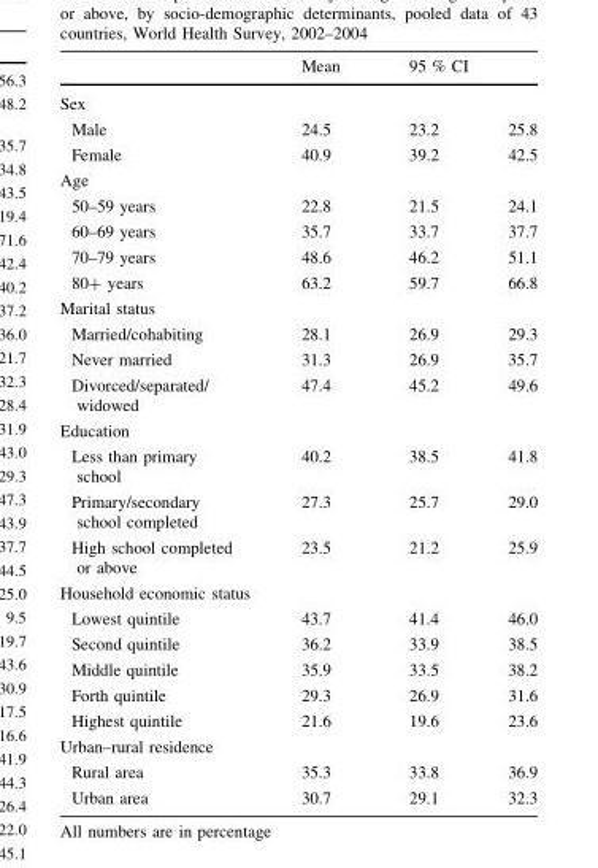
<table><thead><tr><td></td><td>Mean</td><td colspan="2">95 % CI</td></tr><tr><td colspan="4">Sex</td></tr><tr><td>Male</td><td>24.5</td><td>23.2</td><td>25.8</td></tr></thead><tbody><tr><td>Female</td><td>40.9</td><td>39.2</td><td>42.5</td></tr><tr><td colspan="4">Age</td></tr><tr><td>50–59 years</td><td>22.8</td><td>21.5</td><td>24.1</td></tr><tr><td>60–69 years</td><td>35.7</td><td>33.7</td><td>37.7</td></tr><tr><td>70–79 years</td><td>48.6</td><td>46.2</td><td>51.1</td></tr><tr><td>80+ years</td><td>63.2</td><td>59.7</td><td>66.8</td></tr><tr><td colspan="4">Marital status</td></tr><tr><td>Married/cohabiting</td><td>28.1</td><td>26.9</td><td>29.3</td></tr><tr><td>Never married</td><td>31.3</td><td>26.9</td><td>35.7</td></tr><tr><td>Divorced/separated/ widowed</td><td>47.4</td><td>45.2</td><td>49.6</td></tr><tr><td colspan="4">Education</td></tr><tr><td>Less than primary school</td><td>40.2</td><td>38.5</td><td>41.8</td></tr><tr><td>Primary/secondary school completed</td><td>27.3</td><td>25.7</td><td>29.0</td></tr><tr><td>High school completed or above</td><td>23.5</td><td>21.2</td><td>25.9</td></tr><tr><td colspan="4">Household economic status</td></tr><tr><td>Lowest quintile</td><td>43.7</td><td>41.4</td><td>46.0</td></tr><tr><td>Second quintile</td><td>36.2</td><td>33.9</td><td>38.5</td></tr><tr><td>Middle quintile</td><td>35.9</td><td>33.5</td><td>38.2</td></tr><tr><td>Forth quintile</td><td>29.3</td><td>26.9</td><td>31.6</td></tr><tr><td>Highest quintile</td><td>21.6</td><td>19.6</td><td>23.6</td></tr><tr><td colspan="4">Urban–rural residence</td></tr><tr><td>Rural area</td><td>35.3</td><td>33.8</td><td>36.9</td></tr><tr><td>Urban area</td><td>30.7</td><td>29.1</td><td>32.3</td></tr></tbody></table>